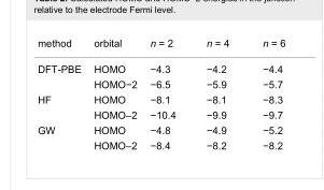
<table><tbody><tr><td>method</td><td>orbital</td><td>n = 2</td><td>n = 4</td><td>n = 6</td></tr><tr><td rowspan="2">DFT-PBE</td><td>HOMO</td><td>−4.3</td><td>−4.2</td><td>−4.4</td></tr><tr><td>HOMO−2</td><td>−6.5</td><td>−5.9</td><td>−5.7</td></tr><tr><td rowspan="2">HF</td><td>HOMO</td><td>−8.1</td><td>−8.1</td><td>−8.3</td></tr><tr><td>HOMO–2</td><td>−10.4</td><td>−9.9</td><td>−9.7</td></tr><tr><td rowspan="2">GW</td><td>HOMO</td><td>−4.8</td><td>−4.9</td><td>−5.2</td></tr><tr><td>HOMO–2</td><td>−8.4</td><td>−8.2</td><td>−8.2</td></tr></tbody></table>